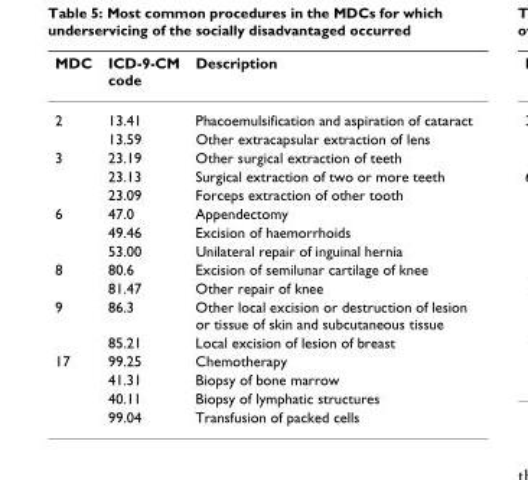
<table><thead><tr><td>MDC</td><td>ICD-9-CM code</td><td>Description</td></tr></thead><tbody><tr><td rowspan="2">2</td><td>13.41</td><td>Phacoemulsification and aspiration of cataract</td></tr><tr><td>13.59</td><td>Other extracapsular extraction of lens</td></tr><tr><td rowspan="3">3</td><td>23.19</td><td>Other surgical extraction of teeth</td></tr><tr><td>23.13</td><td>Surgical extraction of two or more teeth</td></tr><tr><td>23.09</td><td>Forceps extraction of other tooth</td></tr><tr><td rowspan="3">6</td><td>47.0</td><td>Appendectomy</td></tr><tr><td>49.46</td><td>Excision of haemorrhoids</td></tr><tr><td>53.00</td><td>Unilateral repair of inguinal hernia</td></tr><tr><td rowspan="2">8</td><td>80.6</td><td>Excision of semilunar cartilage of knee</td></tr><tr><td>81.47</td><td>Other repair of knee</td></tr><tr><td rowspan="2">9</td><td>86.3</td><td>Other local excision or destruction of lesion or tissue of skin and subcutaneous tissue</td></tr><tr><td>85.21</td><td>Local excision of lesion of breast</td></tr><tr><td rowspan="4">17</td><td>99.25</td><td>Chemotherapy</td></tr><tr><td>41.31</td><td>Biopsy of bone marrow</td></tr><tr><td>40.11</td><td>Biopsy of lymphatic structures</td></tr><tr><td>99.04</td><td>Transfusion of packed cells</td></tr></tbody></table>